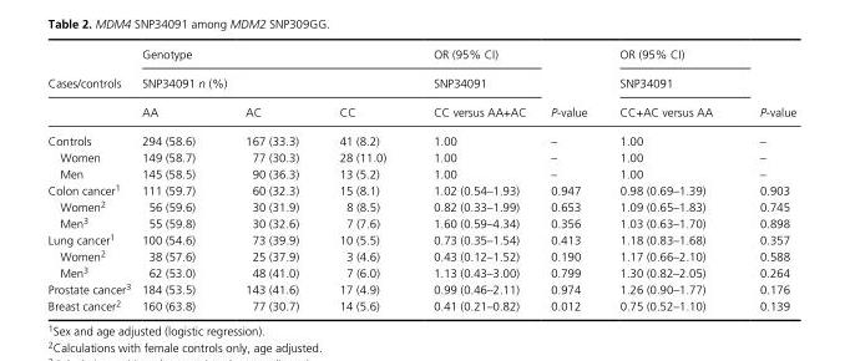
<table><thead><tr><td rowspan="3">Cases/controls</td><td rowspan="2" colspan="3">Genotype SNP34091 n (%)</td><td rowspan="3">OR (95% CI) SNP34091 CC versus AA+AC</td><td rowspan="3">P- value</td><td rowspan="3">OR (95% CI) SNP34091 CC+AC versus AA</td><td rowspan="3">P- value</td></tr><tr></tr><tr><td>AA</td><td>AC</td><td>CC</td></tr></thead><tbody><tr><td>Controls</td><td>294 (58.6)</td><td>167 (33.3)</td><td>41 (8.2)</td><td>1.00</td><td>–</td><td>1.00</td><td>–</td></tr><tr><td>Women</td><td>149 (58.7)</td><td>77 (30.3)</td><td>28 (11.0)</td><td>1.00</td><td>–</td><td>1.00</td><td>–</td></tr><tr><td>Men</td><td>145 (58.5)</td><td>90 (36.3)</td><td>13 (5.2)</td><td>1.00</td><td>–</td><td>1.00</td><td>–</td></tr><tr><td>Colon cancer1</td><td>111 (59.7)</td><td>60 (32.3)</td><td>15 (8.1)</td><td>1.02 (0.54–1.93)</td><td>0.947</td><td>0.98 (0.69–1.39)</td><td>0.903</td></tr><tr><td>Women2</td><td>56 (59.6)</td><td>30 (31.9)</td><td>8 (8.5)</td><td>0.82 (0.33–1.99)</td><td>0.653</td><td>1.09 (0.65–1.83)</td><td>0.745</td></tr><tr><td>Men3</td><td>55 (59.8)</td><td>30 (32.6)</td><td>7 (7.6)</td><td>1.60 (0.59–4.34)</td><td>0.356</td><td>1.03 (0.63–1.70)</td><td>0.898</td></tr><tr><td>Lung cancer1</td><td>100 (54.6)</td><td>73 (39.9)</td><td>10 (5.5)</td><td>0.73 (0.35–1.54)</td><td>0.413</td><td>1.18 (0.83–1.68)</td><td>0.357</td></tr><tr><td>Women2</td><td>38 (57.6)</td><td>25 (37.9)</td><td>3 (4.6)</td><td>0.43 (0.12–1.52)</td><td>0.190</td><td>1.17 (0.66–2.10)</td><td>0.588</td></tr><tr><td>Men3</td><td>62 (53.0)</td><td>48 (41.0)</td><td>7 (6.0)</td><td>1.13 (0.43–3.00)</td><td>0.799</td><td>1.30 (0.82–2.05)</td><td>0.264</td></tr><tr><td>Prostate cancer3</td><td>184 (53.5)</td><td>143 (41.6)</td><td>17 (4.9)</td><td>0.99 (0.46–2.11)</td><td>0.974</td><td>1.26 (0.90–1.77)</td><td>0.176</td></tr><tr><td>Breast cancer2</td><td>160 (63.8)</td><td>77 (30.7)</td><td>14 (5.6)</td><td>0.41 (0.21–0.82)</td><td>0.012</td><td>0.75 (0.52–1.10)</td><td>0.139</td></tr></tbody></table>